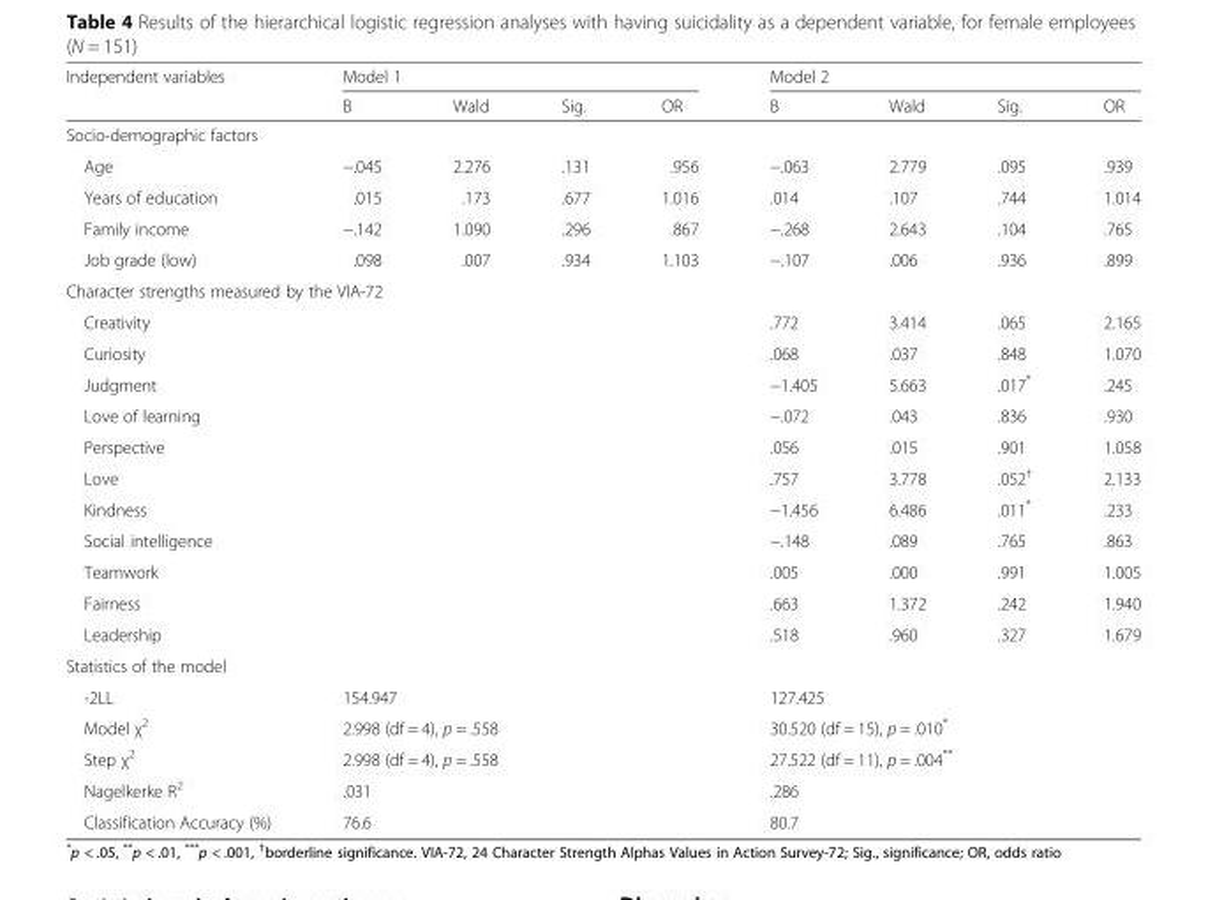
<table><thead><tr><td rowspan="2">Independent variables</td><td colspan="4">Model 1</td><td colspan="4">Model 2</td></tr><tr><td>B</td><td>Wald</td><td>Sig.</td><td>OR</td><td>B</td><td>Wald</td><td>Sig.</td><td>OR</td></tr></thead><tbody><tr><td colspan="9">Socio-demographic factors</td></tr><tr><td>Age</td><td>−.045</td><td>2.276</td><td>.131</td><td>.956</td><td>−.063</td><td>2.779</td><td>.095</td><td>.939</td></tr><tr><td>Years of education</td><td>.015</td><td>.173</td><td>.677</td><td>1.016</td><td>.014</td><td>.107</td><td>.744</td><td>1.014</td></tr><tr><td>Family income</td><td>−.142</td><td>1.090</td><td>.296</td><td>.867</td><td>−.268</td><td>2.643</td><td>.104</td><td>.765</td></tr><tr><td>Job grade (low)</td><td>.098</td><td>.007</td><td>.934</td><td>1.103</td><td>−.107</td><td>.006</td><td>.936</td><td>.899</td></tr><tr><td colspan="9">Character strengths measured by the VIA-72</td></tr><tr><td>Creativity</td><td></td><td></td><td></td><td></td><td>.772</td><td>3.414</td><td>.065</td><td>2.165</td></tr><tr><td>Curiosity</td><td></td><td></td><td></td><td></td><td>.068</td><td>.037</td><td>.848</td><td>1.070</td></tr><tr><td>Judgment</td><td></td><td></td><td></td><td></td><td>−1.405</td><td>5.663</td><td>.017*</td><td>.245</td></tr><tr><td>Love of learning</td><td></td><td></td><td></td><td></td><td>−.072</td><td>.043</td><td>.836</td><td>.930</td></tr><tr><td>Perspective</td><td></td><td></td><td></td><td></td><td>.056</td><td>.015</td><td>.901</td><td>1.058</td></tr><tr><td>Love</td><td></td><td></td><td></td><td></td><td>.757</td><td>3.778</td><td>.052<sup>†</sup></td><td>2.133</td></tr><tr><td>Kindness</td><td></td><td></td><td></td><td></td><td>−1.456</td><td>6.486</td><td>.011*</td><td>.233</td></tr><tr><td>Social intelligence</td><td></td><td></td><td></td><td></td><td>−.148</td><td>.089</td><td>.765</td><td>.863</td></tr><tr><td>Teamwork</td><td></td><td></td><td></td><td></td><td>.005</td><td>.000</td><td>.991</td><td>1.005</td></tr><tr><td>Fairness</td><td></td><td></td><td></td><td></td><td>.663</td><td>1.372</td><td>.242</td><td>1.940</td></tr><tr><td>Leadership</td><td></td><td></td><td></td><td></td><td>.518</td><td>.960</td><td>.327</td><td>1.679</td></tr><tr><td colspan="9">Statistics of the model</td></tr><tr><td>-2LL</td><td colspan="4">154.947</td><td colspan="4">127.425</td></tr><tr><td>Model χ<sup>2</sup></td><td colspan="4">2.998 (df = 4), p = .558</td><td colspan="4">30.520 (df = 15), p = .010*</td></tr><tr><td>Step χ<sup>2</sup></td><td colspan="4">2.998 (df = 4), p = .558</td><td colspan="4">27.522 (df = 11), p = .004**</td></tr><tr><td>Nagelkerke R<sup>2</sup></td><td colspan="4">.031</td><td colspan="4">.286</td></tr><tr><td>Classification Accuracy (%)</td><td colspan="4">76.6</td><td colspan="4">80.7</td></tr></tbody></table>